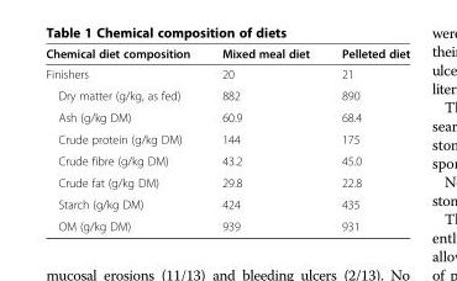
<table><thead><tr><td>Chemical diet composition</td><td>Mixed meal diet</td><td>Pelleted diet</td></tr></thead><tbody><tr><td>Finishers</td><td>20</td><td>21</td></tr><tr><td>Dry matter (g/kg, as fed)</td><td>882</td><td>890</td></tr><tr><td>Ash (g/kg DM)</td><td>60.9</td><td>68.4</td></tr><tr><td>Crude protein (g/kg DM)</td><td>144</td><td>175</td></tr><tr><td>Crude fibre (g/kg DM)</td><td>43.2</td><td>45.0</td></tr><tr><td>Crude fat (g/kg DM)</td><td>29.8</td><td>22.8</td></tr><tr><td>Starch (g/kg DM)</td><td>424</td><td>435</td></tr><tr><td>OM (g/kg DM)</td><td>939</td><td>931</td></tr></tbody></table>